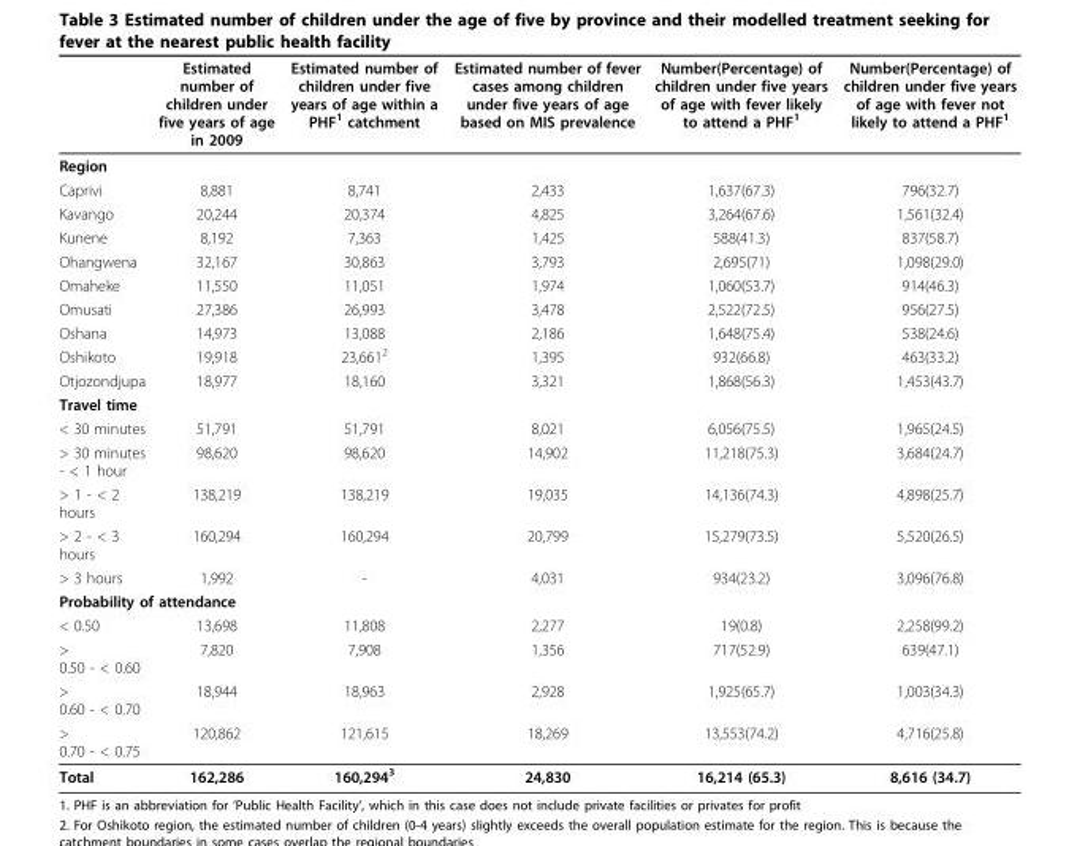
<table><thead><tr><td></td><td>Estimated number of children under five years of age in 2009</td><td>Estimated number of children under five years of age within a PHF<sup>1</sup> catchment</td><td>Estimated number of fever cases among children under five years of age based on MIS prevalence</td><td>Number(Percentage) of children under five years of age with fever likely to attend a PHF<sup>1</sup></td><td>Number(Percentage) of children under five years of age with fever not likely to attend a PHF<sup>1</sup></td></tr></thead><tbody><tr><td colspan="6">Region</td></tr><tr><td>Caprivi</td><td>8,881</td><td>8,741</td><td>2,433</td><td>1,637(67.3)</td><td>796(32.7)</td></tr><tr><td>Kavango</td><td>20,244</td><td>20,374</td><td>4,825</td><td>3,264(67.6)</td><td>1,561(32.4)</td></tr><tr><td>Kunene</td><td>8,192</td><td>7,363</td><td>1,425</td><td>588(41.3)</td><td>837(58.7)</td></tr><tr><td>Ohangwena</td><td>32,167</td><td>30,863</td><td>3,793</td><td>2,695(71)</td><td>1,098(29.0)</td></tr><tr><td>Omaheke</td><td>11,550</td><td>11,051</td><td>1,974</td><td>1,060(53.7)</td><td>914(46.3)</td></tr><tr><td>Omusati</td><td>27,386</td><td>26,993</td><td>3,478</td><td>2,522(72.5)</td><td>956(27.5)</td></tr><tr><td>Oshana</td><td>14,973</td><td>13,088</td><td>2,186</td><td>1,648(75.4)</td><td>538(24.6)</td></tr><tr><td>Oshikoto</td><td>19,918</td><td>23,661<sup>2</sup></td><td>1,395</td><td>932(66.8)</td><td>463(33.2)</td></tr><tr><td>Otjozondjupa</td><td>18,977</td><td>18,160</td><td>3,321</td><td>1,868(56.3)</td><td>1,453(43.7)</td></tr><tr><td colspan="6">Travel time</td></tr><tr><td>&lt; 30 minutes</td><td>51,791</td><td>51,791</td><td>8,021</td><td>6,056(75.5)</td><td>1,965(24.5)</td></tr><tr><td>&gt; 30 minutes - &lt; 1 hour</td><td>98,620</td><td>98,620</td><td>14,902</td><td>11,218(75.3)</td><td>3,684(24.7)</td></tr><tr><td>&gt; 1 - &lt; 2 hours</td><td>138,219</td><td>138,219</td><td>19,035</td><td>14,136(74.3)</td><td>4,898(25.7)</td></tr><tr><td>&gt; 2 - &lt; 3 hours</td><td>160,294</td><td>160,294</td><td>20,799</td><td>15,279(73.5)</td><td>5,520(26.5)</td></tr><tr><td>&gt; 3 hours</td><td>1,992</td><td>-</td><td>4,031</td><td>934(23.2)</td><td>3,096(76.8)</td></tr><tr><td colspan="6">Probability of attendance</td></tr><tr><td>&lt; 0.50</td><td>13,698</td><td>11,808</td><td>2,277</td><td>19(0.8)</td><td>2,258(99.2)</td></tr><tr><td>&gt; 0.50 - &lt; 0.60</td><td>7,820</td><td>7,908</td><td>1,356</td><td>717(52.9)</td><td>639(47.1)</td></tr><tr><td>&gt; 0.60 - &lt; 0.70</td><td>18,944</td><td>18,963</td><td>2,928</td><td>1,925(65.7)</td><td>1,003(34.3)</td></tr><tr><td>&gt; 0.70 - &lt; 0.75</td><td>120,862</td><td>121,615</td><td>18,269</td><td>13,553(74.2)</td><td>4,716(25.8)</td></tr><tr><td>Total</td><td>162,286</td><td>160,294<sup>3</sup></td><td>24,830</td><td>16,214 (65.3)</td><td>8,616 (34.7)</td></tr></tbody></table>